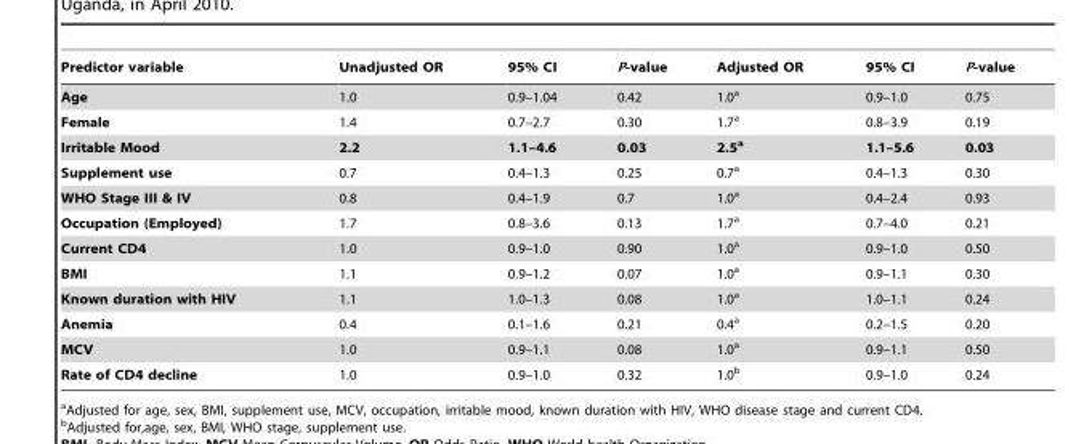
<table><thead><tr><td>Predictor variable</td><td>Unadjusted OR</td><td>95% CI</td><td>P-value</td><td>Adjusted OR</td><td>95% CI</td><td>P-value</td></tr></thead><tbody><tr><td>Age</td><td>1.0</td><td>0.9–1.04</td><td>0.42</td><td>1.0<sup>a</sup></td><td>0.9–1.0</td><td>0.75</td></tr><tr><td>Female</td><td>1.4</td><td>0.7–2.7</td><td>0.30</td><td>1.7<sup>a</sup></td><td>0.8–3.9</td><td>0.19</td></tr><tr><td>Irritable Mood</td><td>2.2</td><td>1.1–4.6</td><td>0.03</td><td>2.5a</td><td>1.1–5.6</td><td>0.03</td></tr><tr><td>Supplement use</td><td>0.7</td><td>0.4–1.3</td><td>0.25</td><td>0.7<sup>a</sup></td><td>0.4–1.3</td><td>0.30</td></tr><tr><td>WHO Stage III &amp; IV</td><td>0.8</td><td>0.4–1.9</td><td>0.7</td><td>1.0<sup>a</sup></td><td>0.4–2.4</td><td>0.93</td></tr><tr><td>Occupation (Employed)</td><td>1.7</td><td>0.8–3.6</td><td>0.13</td><td>1.7<sup>a</sup></td><td>0.7–4.0</td><td>0.21</td></tr><tr><td>Current CD4</td><td>1.0</td><td>0.9–1.0</td><td>0.90</td><td>1.0<sup>a</sup></td><td>0.9–1.0</td><td>0.50</td></tr><tr><td>BMI</td><td>1.1</td><td>0.9–1.2</td><td>0.07</td><td>1.0<sup>a</sup></td><td>0.9–1.1</td><td>0.30</td></tr><tr><td>Known duration with HIV</td><td>1.1</td><td>1.0–1.3</td><td>0.08</td><td>1.0<sup>a</sup></td><td>1.0–1.1</td><td>0.24</td></tr><tr><td>Anemia</td><td>0.4</td><td>0.1–1.6</td><td>0.21</td><td>0.4<sup>a</sup></td><td>0.2–1.5</td><td>0.20</td></tr><tr><td>MCV</td><td>1.0</td><td>0.9–1.1</td><td>0.08</td><td>1.0<sup>a</sup></td><td>0.9–1.1</td><td>0.50</td></tr><tr><td>Rate of CD4 decline</td><td>1.0</td><td>0.9–1.0</td><td>0.32</td><td>1.0<sup>b</sup></td><td>0.9–1.0</td><td>0.24</td></tr></tbody></table>